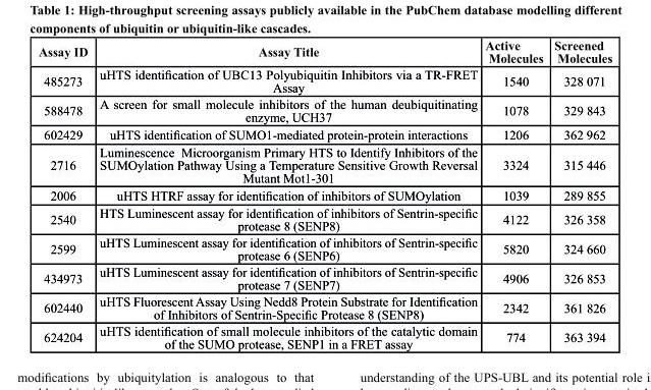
<table><thead><tr><td>Assay Id</td><td>Assay title</td><td>Active Molecules</td><td>screened Molecules</td></tr></thead><tbody><tr><td>485273</td><td>uHTS identification of UBC13 Polyubiquitin Inhibitors via a TR-FRET Assay</td><td>1540</td><td>328 071</td></tr><tr><td>588478</td><td>A screen for small molecule inhibitors of the human deubiquitinating enzyme, UCH37</td><td>1078</td><td>329 843</td></tr><tr><td>602429</td><td>uHTS identification of SUMO1-mediated protein-protein interactions</td><td>1206</td><td>362 962</td></tr><tr><td>2716</td><td>Luminescence Microorganism Primary HTS to Identify Inhibitors of the SUMOylation Pathway Using a Temperature Sensitive Growth Reversal Mutant Mot1-301</td><td>3324</td><td>315 446</td></tr><tr><td>2006</td><td>uHTS HTRF assay for identification of inhibitors of SUMOylation</td><td>1039</td><td>289 855</td></tr><tr><td>2540</td><td>HTS Luminescent assay for identification of inhibitors of Sentrin-specific protease 8 (SENP8)</td><td>4122</td><td>326 358</td></tr><tr><td>2599</td><td>uHTS Luminescent assay for identification of inhibitors of Sentrin-specific protease 6 (SENP6)</td><td>5820</td><td>324 660</td></tr><tr><td>434973</td><td>uHTS Luminescent assay for identification of inhibitors of Sentrin-specific protease 7 (SENP7)</td><td>4906</td><td>326 853</td></tr><tr><td>602440</td><td>uHTS Fluorescent Assay Using Nedd8 Protein Substrate for Identification of Inhibitors of Sentrin-Specific Protease 8 (SENP8)</td><td>2342</td><td>361 826</td></tr><tr><td>624204</td><td>uHTS identification of small molecule inhibitors of the catalytic domain of the SUMO protease, SENP1 in a FRET assay</td><td>774</td><td>363 394</td></tr></tbody></table>